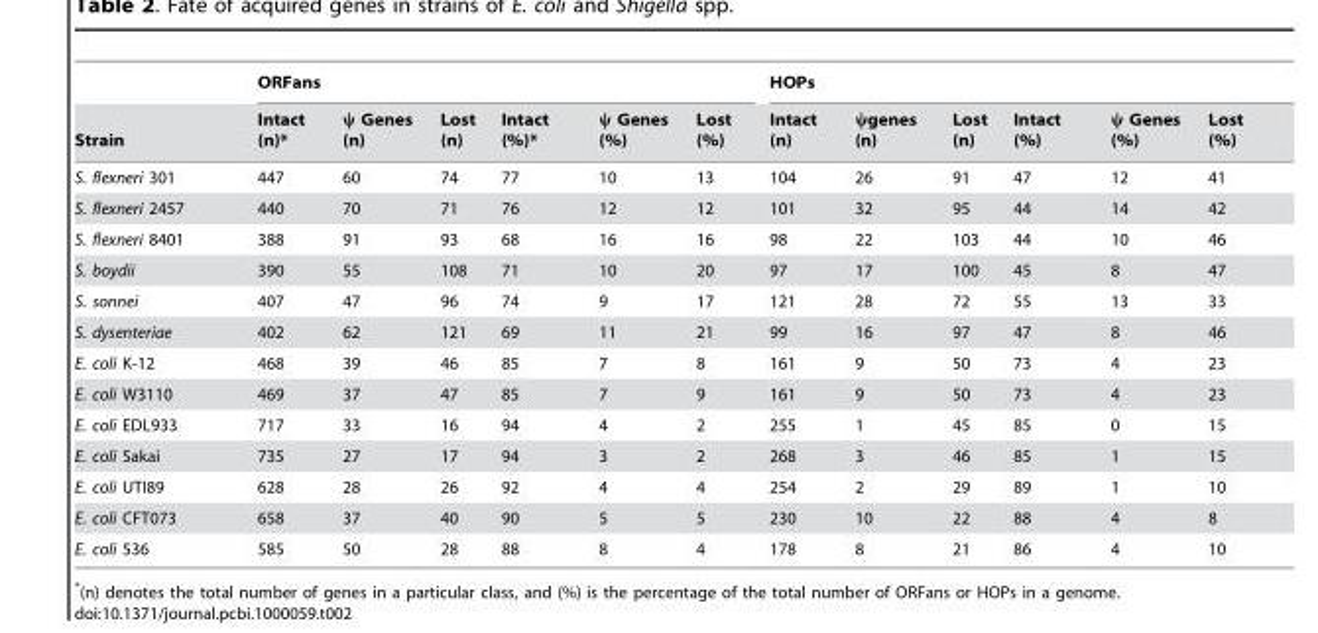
<table><thead><tr><td rowspan="2">Strain</td><td colspan="6">ORFans</td><td colspan="6">HOPs</td></tr><tr><td>Intact (n)*</td><td>ψ Genes (n)</td><td>Lost (n)</td><td>Intact (%)*</td><td>ψ Genes (%)</td><td>Lost (%)</td><td>Intact (n)</td><td>ψgenes (n)</td><td>Lost (n)</td><td>Intact (%)</td><td>ψ Genes (%)</td><td>Lost (%)</td></tr></thead><tbody><tr><td>S. flexneri 301</td><td>447</td><td>60</td><td>74</td><td>77</td><td>10</td><td>13</td><td>104</td><td>26</td><td>91</td><td>47</td><td>12</td><td>41</td></tr><tr><td>S. flexneri 2457</td><td>440</td><td>70</td><td>71</td><td>76</td><td>12</td><td>12</td><td>101</td><td>32</td><td>95</td><td>44</td><td>14</td><td>42</td></tr><tr><td>S. flexneri 8401</td><td>388</td><td>91</td><td>93</td><td>68</td><td>16</td><td>16</td><td>98</td><td>22</td><td>103</td><td>44</td><td>10</td><td>46</td></tr><tr><td>S. boydii</td><td>390</td><td>55</td><td>108</td><td>71</td><td>10</td><td>20</td><td>97</td><td>17</td><td>100</td><td>45</td><td>8</td><td>47</td></tr><tr><td>S. sonnei</td><td>407</td><td>47</td><td>96</td><td>74</td><td>9</td><td>17</td><td>121</td><td>28</td><td>72</td><td>55</td><td>13</td><td>33</td></tr><tr><td>S. dysenteriae</td><td>402</td><td>62</td><td>121</td><td>69</td><td>11</td><td>21</td><td>99</td><td>16</td><td>97</td><td>47</td><td>8</td><td>46</td></tr><tr><td>E. coli K-12</td><td>468</td><td>39</td><td>46</td><td>85</td><td>7</td><td>8</td><td>161</td><td>9</td><td>50</td><td>73</td><td>4</td><td>23</td></tr><tr><td>E. coli W3110</td><td>469</td><td>37</td><td>47</td><td>85</td><td>7</td><td>9</td><td>161</td><td>9</td><td>50</td><td>73</td><td>4</td><td>23</td></tr><tr><td>E. coli EDL933</td><td>717</td><td>33</td><td>16</td><td>94</td><td>4</td><td>2</td><td>255</td><td>1</td><td>45</td><td>85</td><td>0</td><td>15</td></tr><tr><td>E. coli Sakai</td><td>735</td><td>27</td><td>17</td><td>94</td><td>3</td><td>2</td><td>268</td><td>3</td><td>46</td><td>85</td><td>1</td><td>15</td></tr><tr><td>E. coli UTI89</td><td>628</td><td>28</td><td>26</td><td>92</td><td>4</td><td>4</td><td>254</td><td>2</td><td>29</td><td>89</td><td>1</td><td>10</td></tr><tr><td>E. coli CFT073</td><td>658</td><td>37</td><td>40</td><td>90</td><td>5</td><td>5</td><td>230</td><td>10</td><td>22</td><td>88</td><td>4</td><td>8</td></tr><tr><td>E. coli 536</td><td>585</td><td>50</td><td>28</td><td>88</td><td>8</td><td>4</td><td>178</td><td>8</td><td>21</td><td>86</td><td>4</td><td>10</td></tr></tbody></table>